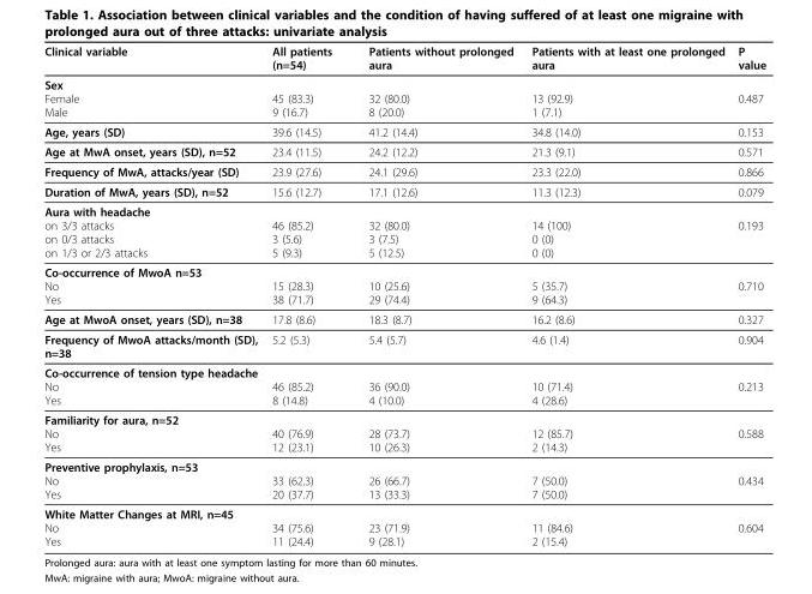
<table><thead><tr><td>Clinical variable</td><td>All patients (n=54)</td><td>Patients without prolonged aura</td><td>Patients with at least one prolonged aura</td><td>P value</td></tr></thead><tbody><tr><td colspan="5">Sex</td></tr><tr><td>Female Male</td><td>45 (83.3) 9 (16.7)</td><td>32 (80.0) 8 (20.0)</td><td>13 (92.9) 1 (7.1)</td><td>0.487</td></tr><tr><td>Age, years (SD)</td><td>39.6 (14.5)</td><td>41.2 (14.4)</td><td>34.8 (14.0)</td><td>0.153</td></tr><tr><td>Age at MwA onset, years (SD), n=52</td><td>23.4 (11.5)</td><td>24.2 (12.2)</td><td>21.3 (9.1)</td><td>0.571</td></tr><tr><td>Frequency of MwA, attacks/year (SD)</td><td>23.9 (27.6)</td><td>24.1 (29.6)</td><td>23.3 (22.0)</td><td>0.866</td></tr><tr><td>Duration of MwA, years (SD), n=52</td><td>15.6 (12.7)</td><td>17.1 (12.6)</td><td>11.3 (12.3)</td><td>0.079</td></tr><tr><td colspan="5">Aura with headache</td></tr><tr><td>on 3/3 attacks on 0/3 attacks on 1/3 or 2/3 attacks</td><td>46 (85.2) 3 (5.6) 5 (9.3)</td><td>32 (80.0) 3 (7.5) 5 (12.5)</td><td>14 (100) 0 (0) 0 (0)</td><td>0.193</td></tr><tr><td colspan="5">Co-occurrence of MwoA n=53</td></tr><tr><td>No Yes</td><td>15 (28.3) 38 (71.7)</td><td>10 (25.6) 29 (74.4)</td><td>5 (35.7) 9 (64.3)</td><td>0.710</td></tr><tr><td>Age at MwoA onset, years (SD), n=38</td><td>17.8 (8.6)</td><td>18.3 (8.7)</td><td>16.2 (8.6)</td><td>0.327</td></tr><tr><td>Frequency of MwoA attacks/month (SD), n=38</td><td>5.2 (5.3)</td><td>5.4 (5.7)</td><td>4.6 (1.4)</td><td>0.904</td></tr><tr><td colspan="5">Co-occurrence of tension type headache</td></tr><tr><td>No Yes</td><td>46 (85.2) 8 (14.8)</td><td>36 (90.0) 4 (10.0)</td><td>10 (71.4) 4 (28.6)</td><td>0.213</td></tr><tr><td colspan="5">Familiarity for aura, n=52</td></tr><tr><td>No Yes</td><td>40 (76.9) 12 (23.1)</td><td>28 (73.7) 10 (26.3)</td><td>12 (85.7) 2 (14.3)</td><td>0.588</td></tr><tr><td colspan="5">Preventive prophylaxis, n=53</td></tr><tr><td>No Yes</td><td>33 (62.3) 20 (37.7)</td><td>26 (66.7) 13 (33.3)</td><td>7 (50.0) 7 (50.0)</td><td>0.434</td></tr><tr><td colspan="5">White Matter Changes at MRI, n=45</td></tr><tr><td>No Yes</td><td>34 (75.6) 11 (24.4)</td><td>23 (71.9) 9 (28.1)</td><td>11 (84.6) 2 (15.4)</td><td>0.604</td></tr></tbody></table>